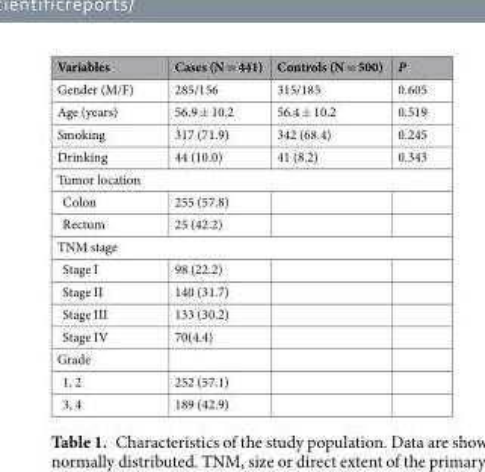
<table><thead><tr><td>Variables</td><td>Cases (N = 441)</td><td>Controls (N = 500)</td><td>P</td></tr></thead><tbody><tr><td>Gender (M/F)</td><td>285/156</td><td>315/185</td><td>0.605</td></tr><tr><td>Age (years)</td><td>56.9 ± 10.2</td><td>56.4 ± 10.2</td><td>0.519</td></tr><tr><td>Smoking</td><td>317 (71.9)</td><td>342 (68.4)</td><td>0.245</td></tr><tr><td>Drinking</td><td>44 (10.0)</td><td>41 (8.2)</td><td>0.343</td></tr><tr><td colspan="4">Tumor location</td></tr><tr><td>Colon</td><td>255 (57.8)</td><td></td><td></td></tr><tr><td>Rectum</td><td>25 (42.2)</td><td></td><td></td></tr><tr><td colspan="4">TNM stage</td></tr><tr><td>Stage I</td><td>98 (22.2)</td><td></td><td></td></tr><tr><td>Stage II</td><td>140 (31.7)</td><td></td><td></td></tr><tr><td>Stage III</td><td>133 (30.2)</td><td></td><td></td></tr><tr><td>Stage IV</td><td>70(4.4)</td><td></td><td></td></tr><tr><td colspan="4">Grade</td></tr><tr><td>1, 2</td><td>252 (57.1)</td><td></td><td></td></tr><tr><td>3, 4</td><td>189 (42.9)</td><td></td><td></td></tr></tbody></table>